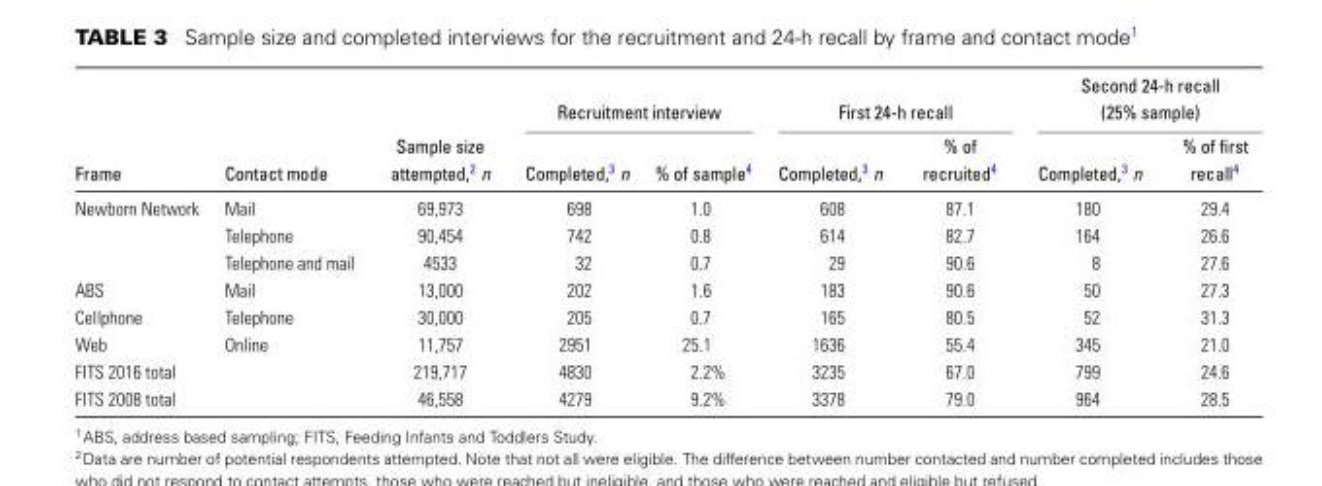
<table><thead><tr><td rowspan="2">Frame</td><td rowspan="2">Contact mode</td><td rowspan="2">Sample size attempted,<sup>2</sup> n</td><td colspan="2">Recruitment interview</td><td colspan="2">First 24-h recall</td><td colspan="2">Second 24-h recall (25% sample)</td></tr><tr><td>Completed,<sup>3</sup> n</td><td>% of sample<sup>4</sup></td><td>Completed,<sup>3</sup> n</td><td>% of recruited<sup>4</sup></td><td>Completed,<sup>3</sup> n</td><td>% of first recall<sup>4</sup></td></tr></thead><tbody><tr><td rowspan="3">Newborn Network</td><td>Mail</td><td>69,973</td><td>698</td><td>1.0</td><td>608</td><td>87.1</td><td>180</td><td>29.4</td></tr><tr><td>Telephone</td><td>90,454</td><td>742</td><td>0.8</td><td>614</td><td>82.7</td><td>164</td><td>26.6</td></tr><tr><td>Telephone and mail</td><td>4533</td><td>32</td><td>0.7</td><td>29</td><td>90.6</td><td>8</td><td>27.6</td></tr><tr><td>ABS</td><td>Mail</td><td>13,000</td><td>202</td><td>1.6</td><td>183</td><td>90.6</td><td>50</td><td>27.3</td></tr><tr><td>Cellphone</td><td>Telephone</td><td>30,000</td><td>205</td><td>0.7</td><td>165</td><td>80.5</td><td>52</td><td>31.3</td></tr><tr><td>Web</td><td>Online</td><td>11,757</td><td>2951</td><td>25.1</td><td>1636</td><td>55.4</td><td>345</td><td>21.0</td></tr><tr><td>FITS 2016 total</td><td></td><td>219,717</td><td>4830</td><td>2.2%</td><td>3235</td><td>67.0</td><td>799</td><td>24.6</td></tr><tr><td>FITS 2008 total</td><td></td><td>46,558</td><td>4279</td><td>9.2%</td><td>3378</td><td>79.0</td><td>964</td><td>28.5</td></tr></tbody></table>